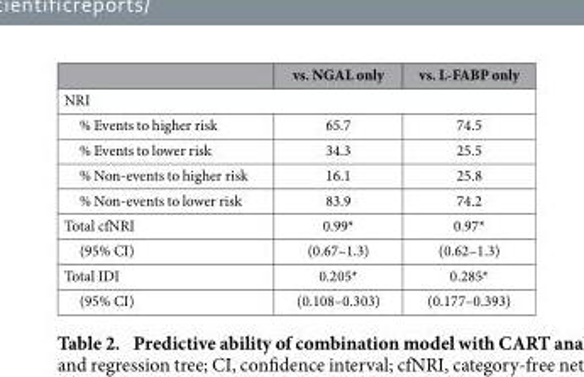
<table><thead><tr><td></td><td>vs. NGAL only</td><td>vs. L-FABP only</td></tr></thead><tbody><tr><td colspan="3">NRI</td></tr><tr><td>% Events to higher risk</td><td>65.7</td><td>74.5</td></tr><tr><td>% Events to lower risk</td><td>34.3</td><td>25.5</td></tr><tr><td>% Non-events to higher risk</td><td>16.1</td><td>25.8</td></tr><tr><td>% Non-events to lower risk</td><td>83.9</td><td>74.2</td></tr><tr><td>Total cfNRI</td><td>0.99*</td><td>0.97*</td></tr><tr><td>(95% CI)</td><td>(0.67–1.3)</td><td>(0.62–1.3)</td></tr><tr><td>Total IDI</td><td>0.205*</td><td>0.285*</td></tr><tr><td>(95% CI)</td><td>(0.108–0.303)</td><td>(0.177–0.393)</td></tr></tbody></table>